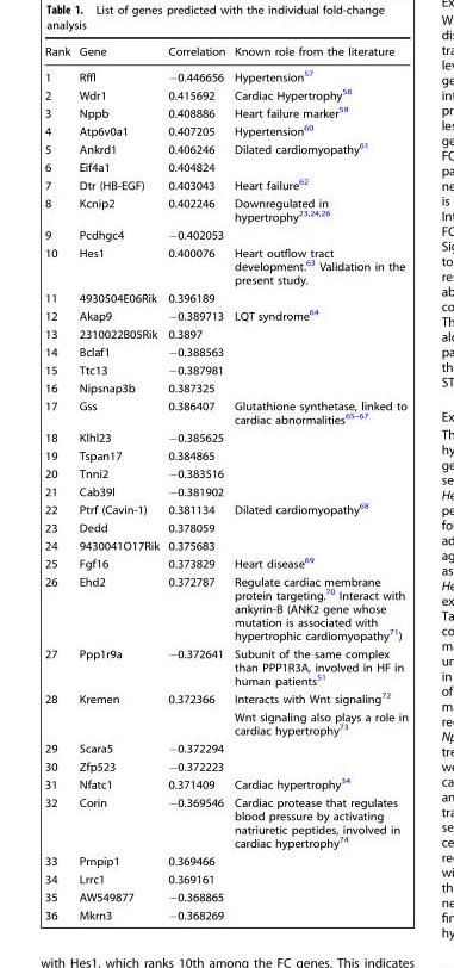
<table><thead><tr><td>Rank</td><td>Gene</td><td>Correlation</td><td>Known role from the literature</td></tr></thead><tbody><tr><td>1</td><td>Rffl</td><td>−0.446656</td><td>Hypertension<sup>57</sup></td></tr><tr><td>2</td><td>Wdr1</td><td>0.415692</td><td>Cardiac Hypertrophy<sup>58</sup></td></tr><tr><td>3</td><td>Nppb</td><td>0.408886</td><td>Heart failure marker<sup>59</sup></td></tr><tr><td>4</td><td>Atp6v0a1</td><td>0.407205</td><td>Hypertension<sup>60</sup></td></tr><tr><td>5</td><td>Ankrd1</td><td>0.406246</td><td>Dilated cardiomyopathy<sup>61</sup></td></tr><tr><td>6</td><td>Eif4a1</td><td>0.404824</td><td></td></tr><tr><td>7</td><td>Dtr (HB-EGF)</td><td>0.403043</td><td>Heart failure<sup>62</sup></td></tr><tr><td>8</td><td>Kcnip2</td><td>0.402246</td><td>Downregulated in hypertrophy<sup>23,24,26</sup></td></tr><tr><td>9</td><td>Pcdhgc4</td><td>−0.402053</td><td></td></tr><tr><td>10</td><td>Hes1</td><td>0.400076</td><td>Heart outflow tract development.<sup>63</sup> Validation in the present study.</td></tr><tr><td>11</td><td>4930504E06Rik</td><td>0.396189</td><td></td></tr><tr><td>12</td><td>Akap9</td><td>−0.389713</td><td>LQT syndrome<sup>64</sup></td></tr><tr><td>13</td><td>2310022B05Rik</td><td>0.3897</td><td></td></tr><tr><td>14</td><td>Bclaf1</td><td>−0.388563</td><td></td></tr><tr><td>15</td><td>Ttc13</td><td>−0.387981</td><td></td></tr><tr><td>16</td><td>Nipsnap3b</td><td>0.387325</td><td></td></tr><tr><td>17</td><td>Gss</td><td>0.386407</td><td>Glutathione synthetase, linked to cardiac abnormalities<sup>65–67</sup></td></tr><tr><td>18</td><td>Klhl23</td><td>−0.385625</td><td></td></tr><tr><td>19</td><td>Tspan17</td><td>0.384865</td><td></td></tr><tr><td>20</td><td>Tnni2</td><td>−0.383516</td><td></td></tr><tr><td>21</td><td>Cab39l</td><td>−0.381902</td><td></td></tr><tr><td>22</td><td>Ptrf (Cavin-1)</td><td>0.381134</td><td>Dilated cardiomyopathy<sup>68</sup></td></tr><tr><td>23</td><td>Dedd</td><td>0.378059</td><td></td></tr><tr><td>24</td><td>9430041O17Rik</td><td>0.375683</td><td></td></tr><tr><td>25</td><td>Fgf16</td><td>0.373829</td><td>Heart disease<sup>69</sup></td></tr><tr><td>26</td><td>Ehd2</td><td>0.372787</td><td>Regulate cardiac membrane protein targeting.<sup>70</sup> Interact with ankyrin-B (ANK2 gene whose mutation is associated with hypertrophic cardiomyopathy<sup>71</sup>)</td></tr><tr><td>27</td><td>Ppp1r9a</td><td>−0.372641</td><td>Subunit of the same complex than PPP1R3A, involved in HF in human patients<sup>51</sup></td></tr><tr><td rowspan="2">28</td><td>Kremen</td><td>0.372366</td><td>Interacts with Wnt signaling<sup>72</sup></td></tr><tr><td></td><td></td><td>Wnt signaling also plays a role in cardiac hypertrophy<sup>73</sup></td></tr><tr><td>29</td><td>Scara5</td><td>−0.372294</td><td></td></tr><tr><td>30</td><td>Zfp523</td><td>−0.372223</td><td></td></tr><tr><td>31</td><td>Nfatc1</td><td>0.371409</td><td>Cardiac hypertrophy<sup>34</sup></td></tr><tr><td>32</td><td>Corin</td><td>−0.369546</td><td>Cardiac protease that regulates blood pressure by activating natriuretic peptides, involved in cardiac hypertrophy<sup>74</sup></td></tr><tr><td>33</td><td>Prnpip1</td><td>0.369466</td><td></td></tr><tr><td>34</td><td>Lrrc1</td><td>0.369161</td><td></td></tr><tr><td>35</td><td>AW549877</td><td>−0.368865</td><td></td></tr><tr><td>36</td><td>Mkrn3</td><td>−0.368269</td><td></td></tr></tbody></table>